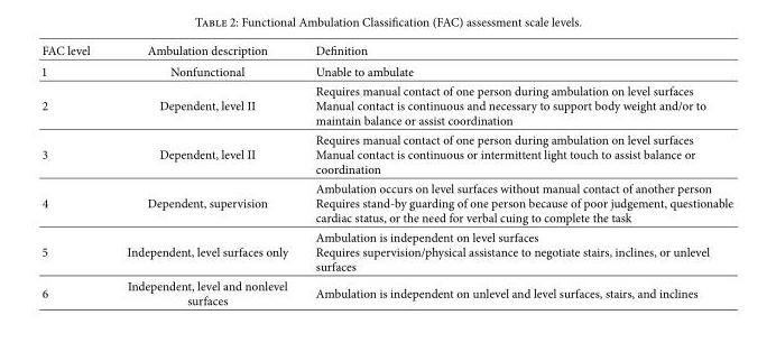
<table><thead><tr><td>FAC level</td><td>Ambulation description</td><td>Definition</td></tr></thead><tbody><tr><td>1</td><td>Nonfunctional</td><td>Unable to ambulate</td></tr><tr><td>2</td><td>Dependent, level II</td><td>Requires manual contact of one person during ambulation on level surfaces Manual contact is continuous and necessary to support body weight and/or to maintain balance or assist coordination</td></tr><tr><td>3</td><td>Dependent, level II</td><td>Requires manual contact of one person during ambulation on level surfaces Manual contact is continuous or intermittent light touch to assist balance or coordination</td></tr><tr><td>4</td><td>Dependent, supervision</td><td>Ambulation occurs on level surfaces without manual contact of another person Requires stand-by guarding of one person because of poor judgement, questionable cardiac status, or the need for verbal cuing to complete the task</td></tr><tr><td>5</td><td>Independent, level surfaces only</td><td>Ambulation is independent on level surfaces Requires supervision/physical assistance to negotiate stairs, inclines, or unlevel surfaces</td></tr><tr><td>6</td><td>Independent, level and nonlevel surfaces</td><td>Ambulation is independent on unlevel and level surfaces, stairs, and inclines</td></tr></tbody></table>